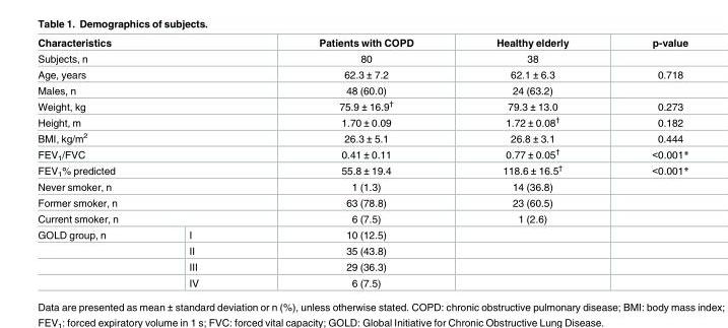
<table><thead><tr><td colspan="2">Characteristics</td><td>Patients with COPD</td><td>Healthy elderly</td><td>p-value</td></tr></thead><tbody><tr><td colspan="2">Subjects, n</td><td>80</td><td>38</td><td></td></tr><tr><td colspan="2">Age, years</td><td>62.3 ± 7.2</td><td>62.1 ± 6.3</td><td>0.718</td></tr><tr><td colspan="2">Males, n</td><td>48 (60.0)</td><td>24 (63.2)</td><td></td></tr><tr><td colspan="2">Weight, kg</td><td>75.9 ± 16.9<sup>†</sup></td><td>79.3 ± 13.0</td><td>0.273</td></tr><tr><td colspan="2">Height, m</td><td>1.70 ± 0.09</td><td>1.72 ± 0.08<sup>†</sup></td><td>0.182</td></tr><tr><td colspan="2">BMI, kg/m<sup>2</sup></td><td>26.3 ± 5.1</td><td>26.8 ± 3.1</td><td>0.444</td></tr><tr><td colspan="2">FEV<sub>1</sub>/FVC</td><td>0.41 ± 0.11</td><td>0.77 ± 0.05<sup>†</sup></td><td>&lt;0.001*</td></tr><tr><td colspan="2">FEV<sub>1</sub>% predicted</td><td>55.8 ± 19.4</td><td>118.6 ± 16.5<sup>†</sup></td><td>&lt;0.001*</td></tr><tr><td colspan="2">Never smoker, n</td><td>1 (1.3)</td><td>14 (36.8)</td><td></td></tr><tr><td colspan="2">Former smoker, n</td><td>63 (78.8)</td><td>23 (60.5)</td><td></td></tr><tr><td colspan="2">Current smoker, n</td><td>6 (7.5)</td><td>1 (2.6)</td><td></td></tr><tr><td rowspan="4">GOLD group, n</td><td>I</td><td>10 (12.5)</td><td></td><td></td></tr><tr><td>II</td><td>35 (43.8)</td><td></td><td></td></tr><tr><td>III</td><td>29 (36.3)</td><td></td><td></td></tr><tr><td>IV</td><td>6 (7.5)</td><td></td><td></td></tr></tbody></table>